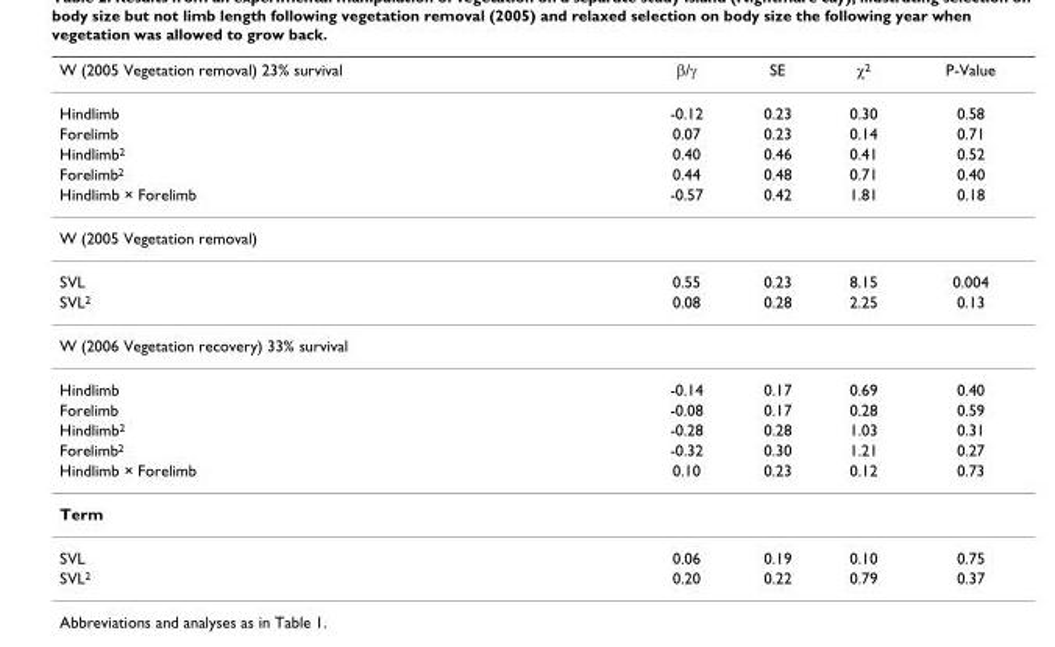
<table><thead><tr><td>W (2005 Vegetation removal) 23% survival</td><td>β/γ</td><td>SE</td><td>χ<sup>2</sup></td><td>P-Value</td></tr></thead><tbody><tr><td>Hindlimb</td><td>-0.12</td><td>0.23</td><td>0.30</td><td>0.58</td></tr><tr><td>Forelimb</td><td>0.07</td><td>0.23</td><td>0.14</td><td>0.71</td></tr><tr><td>Hindlimb<sup>2</sup></td><td>0.40</td><td>0.46</td><td>0.41</td><td>0.52</td></tr><tr><td>Forelimb<sup>2</sup></td><td>0.44</td><td>0.48</td><td>0.71</td><td>0.40</td></tr><tr><td>Hindlimb × Forelimb</td><td>-0.57</td><td>0.42</td><td>1.81</td><td>0.18</td></tr><tr><td colspan="5">W (2005 Vegetation removal)</td></tr><tr><td>SVL</td><td>0.55</td><td>0.23</td><td>8.15</td><td>0.004</td></tr><tr><td>SVL<sup>2</sup></td><td>0.08</td><td>0.28</td><td>2.25</td><td>0.13</td></tr><tr><td colspan="5">W (2006 Vegetation recovery) 33% survival</td></tr><tr><td>Hindlimb</td><td>-0.14</td><td>0.17</td><td>0.69</td><td>0.40</td></tr><tr><td>Forelimb</td><td>-0.08</td><td>0.17</td><td>0.28</td><td>0.59</td></tr><tr><td>Hindlimb<sup>2</sup></td><td>-0.28</td><td>0.28</td><td>1.03</td><td>0.31</td></tr><tr><td>Forelimb<sup>2</sup></td><td>-0.32</td><td>0.30</td><td>1.21</td><td>0.27</td></tr><tr><td>Hindlimb × Forelimb</td><td>0.10</td><td>0.23</td><td>0.12</td><td>0.73</td></tr><tr><td colspan="5">Term</td></tr><tr><td>SVL</td><td>0.06</td><td>0.19</td><td>0.10</td><td>0.75</td></tr><tr><td>SVL<sup>2</sup></td><td>0.20</td><td>0.22</td><td>0.79</td><td>0.37</td></tr></tbody></table>